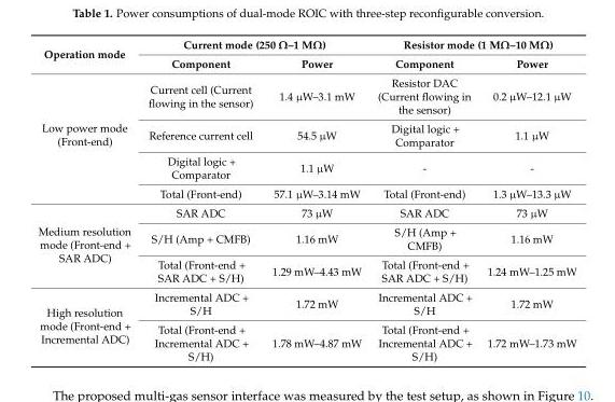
<table><thead><tr><td rowspan="2">Operation mode</td><td colspan="2">Current mode (250 Ω–1 MΩ)</td><td colspan="2">Resistor mode (1 MΩ–10 MΩ)</td></tr><tr><td>Component</td><td>Power</td><td>Component</td><td>Power</td></tr></thead><tbody><tr><td rowspan="4">Low power mode (Front-end)</td><td>Current cell (Current flowing in the sensor)</td><td>1.4 µW–3.1 mW</td><td>Resistor DAC (Current flowing in the sensor)</td><td>0.2 µW–12.1 µW</td></tr><tr><td>Reference current cell</td><td>54.5 µW</td><td>Digital logic + Comparator</td><td>1.1 µW</td></tr><tr><td>Digital logic + Comparator</td><td>1.1 µW</td><td>-</td><td>-</td></tr><tr><td>Total (Front-end)</td><td>57.1 µW–3.14 mW</td><td>Total (Front-end)</td><td>1.3 µW–13.3 µW</td></tr><tr><td rowspan="3">Medium resolution mode (Front-end + SAR ADC)</td><td>SAR ADC</td><td>73 µW</td><td>SAR ADC</td><td>73 µW</td></tr><tr><td>S/H (Amp + CMFB)</td><td>1.16 mW</td><td>S/H (Amp + CMFB)</td><td>1.16 mW</td></tr><tr><td>Total (Front-end + SAR ADC + S/H)</td><td>1.29 mW–4.43 mW</td><td>Total (Front-end + SAR ADC + S/H)</td><td>1.24 mW–1.25 mW</td></tr><tr><td rowspan="2">High resolution mode (Front-end + Incremental ADC)</td><td>Incremental ADC + S/H</td><td>1.72 mW</td><td>Incremental ADC + S/H</td><td>1.72 mW</td></tr><tr><td>Total (Front-end + Incremental ADC + S/H)</td><td>1.78 mW–4.87 mW</td><td>Total (Front-end + Incremental ADC + S/H)</td><td>1.72 mW–1.73 mW</td></tr></tbody></table>